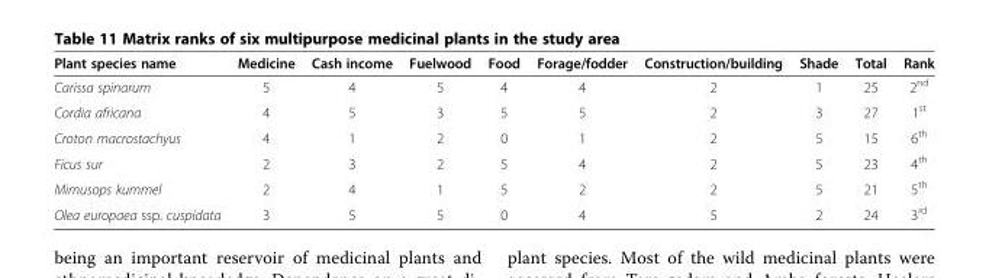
<table><thead><tr><td>Plant species name</td><td>Medicine</td><td>Cash income</td><td>Fuelwood</td><td>Food</td><td>Forage/fodder</td><td>Construction/building</td><td>Shade</td><td>Total</td><td>Rank</td></tr></thead><tbody><tr><td>Carissa spinarum</td><td>5</td><td>4</td><td>5</td><td>4</td><td>4</td><td>2</td><td>1</td><td>25</td><td>2<sup>nd</sup></td></tr><tr><td>Cordia africana</td><td>4</td><td>5</td><td>3</td><td>5</td><td>5</td><td>2</td><td>3</td><td>27</td><td>1<sup>st</sup></td></tr><tr><td>Croton macrostachyus</td><td>4</td><td>1</td><td>2</td><td>0</td><td>1</td><td>2</td><td>5</td><td>15</td><td>6<sup>th</sup></td></tr><tr><td>Ficus sur</td><td>2</td><td>3</td><td>2</td><td>5</td><td>4</td><td>2</td><td>5</td><td>23</td><td>4<sup>th</sup></td></tr><tr><td>Mimusops kummel</td><td>2</td><td>4</td><td>1</td><td>5</td><td>2</td><td>2</td><td>5</td><td>21</td><td>5<sup>th</sup></td></tr><tr><td>Olea europaea ssp. cuspidata</td><td>3</td><td>5</td><td>5</td><td>0</td><td>4</td><td>5</td><td>2</td><td>24</td><td>3<sup>rd</sup></td></tr></tbody></table>